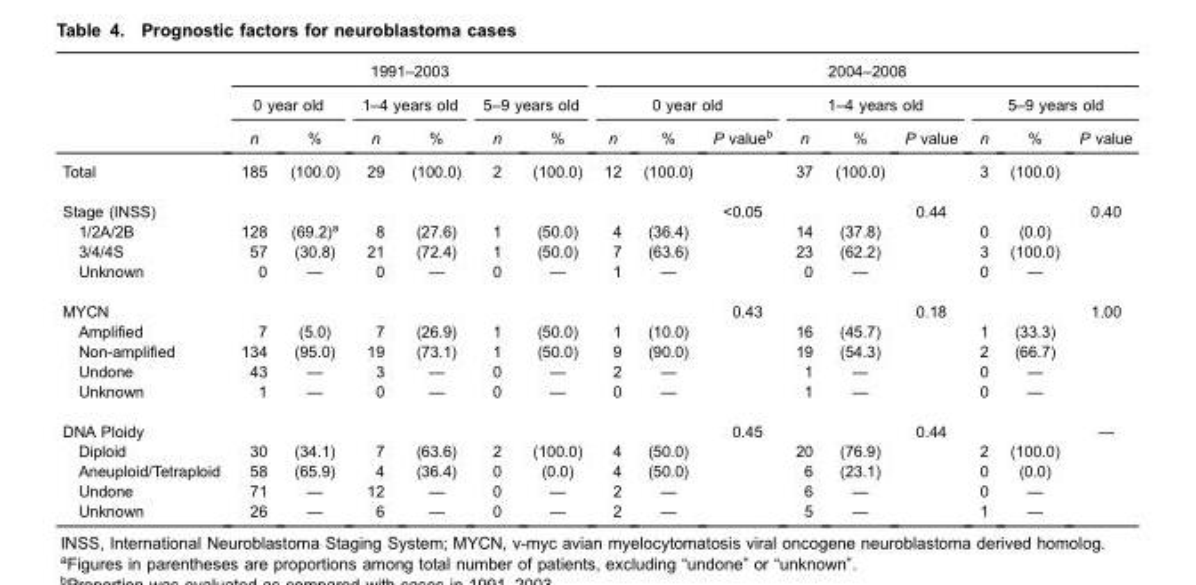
<table><thead><tr><td rowspan="3"></td><td colspan="6">1991–2003</td><td colspan="9">2004–2008</td></tr><tr><td colspan="2">0 year old</td><td colspan="2">1–4 years old</td><td colspan="2">5–9 years old</td><td colspan="3">0 year old</td><td colspan="3">1–4 years old</td><td colspan="3">5–9 years old</td></tr><tr><td>n</td><td>%</td><td>n</td><td>%</td><td>n</td><td>%</td><td>n</td><td>%</td><td>P value<sup>b</sup></td><td>n</td><td>%</td><td>P value</td><td>n</td><td>%</td><td>P value</td></tr></thead><tbody><tr><td>Total</td><td>185</td><td>(100.0)</td><td>29</td><td>(100.0)</td><td>2</td><td>(100.0)</td><td>12</td><td>(100.0)</td><td></td><td>37</td><td>(100.0)</td><td></td><td>3</td><td>(100.0)</td><td></td></tr><tr><td>Stage (INSS)</td><td></td><td></td><td></td><td></td><td></td><td></td><td></td><td></td><td>&lt;0.05</td><td></td><td></td><td>0.44</td><td></td><td></td><td>0.40</td></tr><tr><td>1/2A/2B</td><td>128</td><td>(69.2)<sup>a</sup></td><td>8</td><td>(27.6)</td><td>1</td><td>(50.0)</td><td>4</td><td>(36.4)</td><td></td><td>14</td><td>(37.8)</td><td></td><td>0</td><td>(0.0)</td><td></td></tr><tr><td>3/4/4S</td><td>57</td><td>(30.8)</td><td>21</td><td>(72.4)</td><td>1</td><td>(50.0)</td><td>7</td><td>(63.6)</td><td></td><td>23</td><td>(62.2)</td><td></td><td>3</td><td>(100.0)</td><td></td></tr><tr><td>Unknown</td><td>0</td><td>—</td><td>0</td><td>—</td><td>0</td><td>—</td><td>1</td><td>—</td><td></td><td>0</td><td>—</td><td></td><td>0</td><td>—</td><td></td></tr><tr><td>MYCN</td><td></td><td></td><td></td><td></td><td></td><td></td><td></td><td></td><td>0.43</td><td></td><td></td><td>0.18</td><td></td><td></td><td>1.00</td></tr><tr><td>Amplified</td><td>7</td><td>(5.0)</td><td>7</td><td>(26.9)</td><td>1</td><td>(50.0)</td><td>1</td><td>(10.0)</td><td></td><td>16</td><td>(45.7)</td><td></td><td>1</td><td>(33.3)</td><td></td></tr><tr><td>Non-amplified</td><td>134</td><td>(95.0)</td><td>19</td><td>(73.1)</td><td>1</td><td>(50.0)</td><td>9</td><td>(90.0)</td><td></td><td>19</td><td>(54.3)</td><td></td><td>2</td><td>(66.7)</td><td></td></tr><tr><td>Undone</td><td>43</td><td>—</td><td>3</td><td>—</td><td>0</td><td>—</td><td>2</td><td>—</td><td></td><td>1</td><td>—</td><td></td><td>0</td><td>—</td><td></td></tr><tr><td>Unknown</td><td>1</td><td>—</td><td>0</td><td>—</td><td>0</td><td>—</td><td>0</td><td>—</td><td></td><td>1</td><td>—</td><td></td><td>0</td><td>—</td><td></td></tr><tr><td>DNA Ploidy</td><td></td><td></td><td></td><td></td><td></td><td></td><td></td><td></td><td>0.45</td><td></td><td></td><td>0.44</td><td></td><td></td><td>—</td></tr><tr><td>Diploid</td><td>30</td><td>(34.1)</td><td>7</td><td>(63.6)</td><td>2</td><td>(100.0)</td><td>4</td><td>(50.0)</td><td></td><td>20</td><td>(76.9)</td><td></td><td>2</td><td>(100.0)</td><td></td></tr><tr><td>Aneuploid/Tetraploid</td><td>58</td><td>(65.9)</td><td>4</td><td>(36.4)</td><td>0</td><td>(0.0)</td><td>4</td><td>(50.0)</td><td></td><td>6</td><td>(23.1)</td><td></td><td>0</td><td>(0.0)</td><td></td></tr><tr><td>Undone</td><td>71</td><td>—</td><td>12</td><td>—</td><td>0</td><td>—</td><td>2</td><td>—</td><td></td><td>6</td><td>—</td><td></td><td>0</td><td>—</td><td></td></tr><tr><td>Unknown</td><td>26</td><td>—</td><td>6</td><td>—</td><td>0</td><td>—</td><td>2</td><td>—</td><td></td><td>5</td><td>—</td><td></td><td>1</td><td>—</td><td></td></tr></tbody></table>